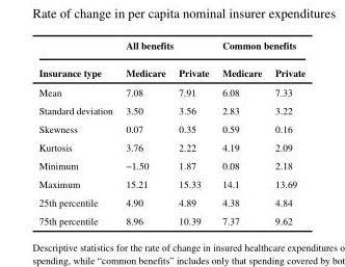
<table><thead><tr><td rowspan="2">Insurance type</td><td colspan="2">All benefits</td><td colspan="2">Common benefits</td></tr><tr><td>Medicare</td><td>Private</td><td>Medicare</td><td>Private</td></tr></thead><tbody><tr><td>Mean</td><td>7.08</td><td>7.91</td><td>6.08</td><td>7.33</td></tr><tr><td>Standard deviation</td><td>3.50</td><td>3.56</td><td>2.83</td><td>3.22</td></tr><tr><td>Skewness</td><td>0.07</td><td>0.35</td><td>0.59</td><td>0.16</td></tr><tr><td>Kurtosis</td><td>3.76</td><td>2.22</td><td>4.19</td><td>2.09</td></tr><tr><td>Minimum</td><td>−1.50</td><td>1.87</td><td>0.08</td><td>2.18</td></tr><tr><td>Maximum</td><td>15.21</td><td>15.33</td><td>14.1</td><td>13.69</td></tr><tr><td>25th percentile</td><td>4.90</td><td>4.89</td><td>4.38</td><td>4.84</td></tr><tr><td>75th percentile</td><td>8.96</td><td>10.39</td><td>7.37</td><td>9.62</td></tr></tbody></table>